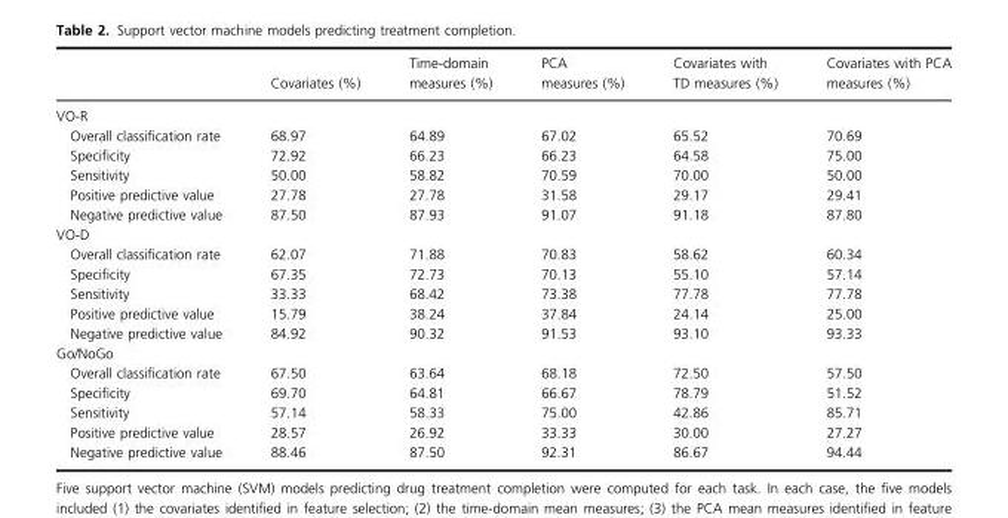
<table><thead><tr><td></td><td>Covariates (%)</td><td>Time-domain measures (%)</td><td>PCA measures (%)</td><td>Covariates with TD measures (%)</td><td>Covariates with PCA measures (%)</td></tr></thead><tbody><tr><td colspan="6">VO-R</td></tr><tr><td>Overall classification rate</td><td>68.97</td><td>64.89</td><td>67.02</td><td>65.52</td><td>70.69</td></tr><tr><td>Specificity</td><td>72.92</td><td>66.23</td><td>66.23</td><td>64.58</td><td>75.00</td></tr><tr><td>Sensitivity</td><td>50.00</td><td>58.82</td><td>70.59</td><td>70.00</td><td>50.00</td></tr><tr><td>Positive predictive value</td><td>27.78</td><td>27.78</td><td>31.58</td><td>29.17</td><td>29.41</td></tr><tr><td>Negative predictive value</td><td>87.50</td><td>87.93</td><td>91.07</td><td>91.18</td><td>87.80</td></tr><tr><td colspan="6">VO-D</td></tr><tr><td>Overall classification rate</td><td>62.07</td><td>71.88</td><td>70.83</td><td>58.62</td><td>60.34</td></tr><tr><td>Specificity</td><td>67.35</td><td>72.73</td><td>70.13</td><td>55.10</td><td>57.14</td></tr><tr><td>Sensitivity</td><td>33.33</td><td>68.42</td><td>73.38</td><td>77.78</td><td>77.78</td></tr><tr><td>Positive predictive value</td><td>15.79</td><td>38.24</td><td>37.84</td><td>24.14</td><td>25.00</td></tr><tr><td>Negative predictive value</td><td>84.92</td><td>90.32</td><td>91.53</td><td>93.10</td><td>93.33</td></tr><tr><td colspan="6">Go/NoGo</td></tr><tr><td>Overall classification rate</td><td>67.50</td><td>63.64</td><td>68.18</td><td>72.50</td><td>57.50</td></tr><tr><td>Specificity</td><td>69.70</td><td>64.81</td><td>66.67</td><td>78.79</td><td>51.52</td></tr><tr><td>Sensitivity</td><td>57.14</td><td>58.33</td><td>75.00</td><td>42.86</td><td>85.71</td></tr><tr><td>Positive predictive value</td><td>28.57</td><td>26.92</td><td>33.33</td><td>30.00</td><td>27.27</td></tr><tr><td>Negative predictive value</td><td>88.46</td><td>87.50</td><td>92.31</td><td>86.67</td><td>94.44</td></tr></tbody></table>